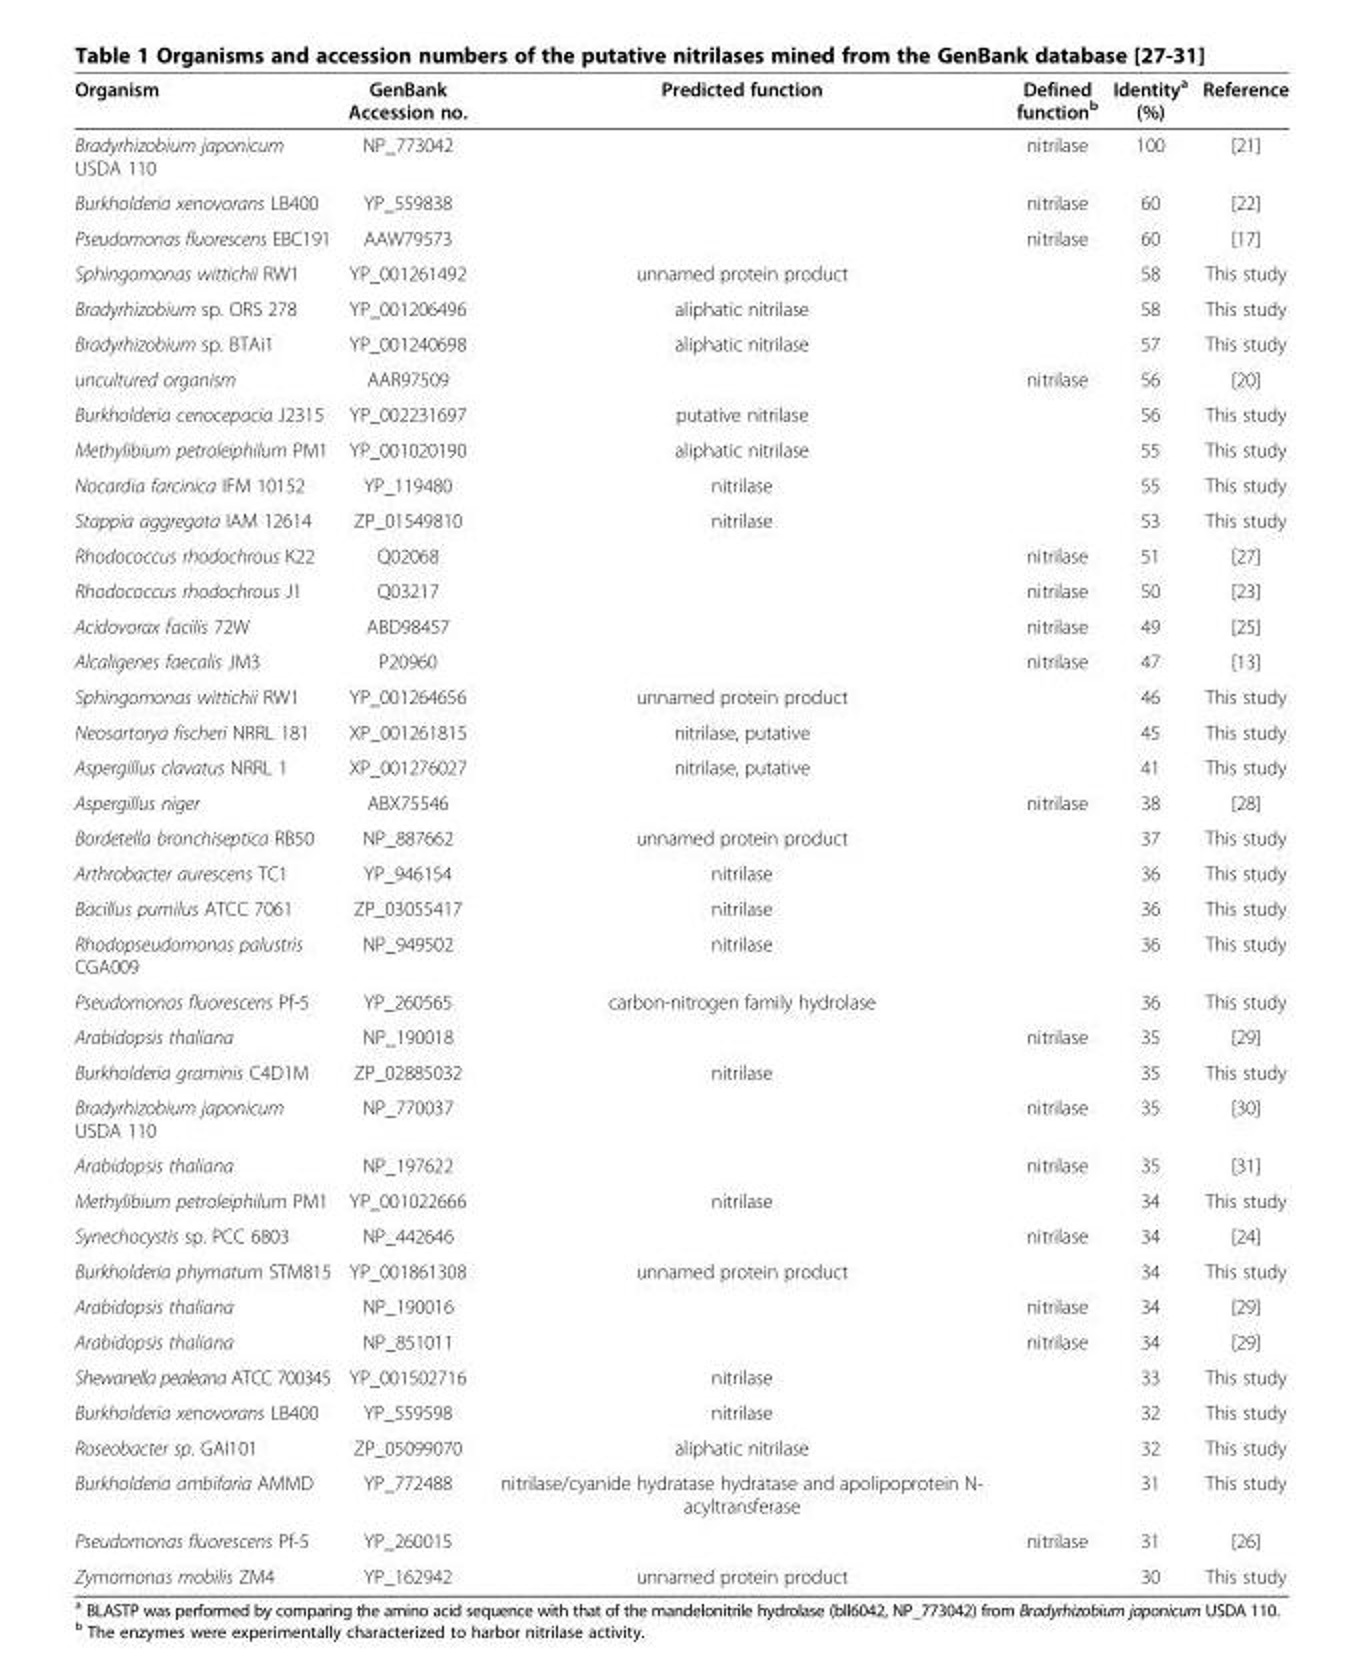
<table><thead><tr><td>Organism</td><td>GenBank Accession no.</td><td>Predicted function</td><td>Defined function<sup>b</sup></td><td>Identity<sup>a</sup> (%)</td><td>Reference</td></tr></thead><tbody><tr><td>Bradyrhizobium japonicum USDA 110</td><td>NP_773042</td><td></td><td>nitrilase</td><td>100</td><td>[21]</td></tr><tr><td>Burkholderia xenovorans LB400</td><td>YP_559838</td><td></td><td>nitrilase</td><td>60</td><td>[22]</td></tr><tr><td>Pseudomonas fluorescens EBC191</td><td>AAW79573</td><td></td><td>nitrilase</td><td>60</td><td>[17]</td></tr><tr><td>Sphingomonas wittichii RW1</td><td>YP_001261492</td><td>unnamed protein product</td><td></td><td>58</td><td>This study</td></tr><tr><td>Bradyrhizobium sp. ORS 278</td><td>YP_001206496</td><td>aliphatic nitrilase</td><td></td><td>58</td><td>This study</td></tr><tr><td>Bradyrhizobium sp. BTAi1</td><td>YP_001240698</td><td>aliphatic nitrilase</td><td></td><td>57</td><td>This study</td></tr><tr><td>uncultured organism</td><td>AAR97509</td><td></td><td>nitrilase</td><td>56</td><td>[20]</td></tr><tr><td>Burkholderia cenocepacia J2315</td><td>YP_002231697</td><td>putative nitrilase</td><td></td><td>56</td><td>This study</td></tr><tr><td>Methylibium petroleiphilum PM1</td><td>YP_001020190</td><td>aliphatic nitrilase</td><td></td><td>55</td><td>This study</td></tr><tr><td>Nocardia farcinica IFM 10152</td><td>YP_119480</td><td>nitrilase</td><td></td><td>55</td><td>This study</td></tr><tr><td>Stappia aggregata IAM 12614</td><td>ZP_01549810</td><td>nitrilase</td><td></td><td>53</td><td>This study</td></tr><tr><td>Rhodococcus rhodochrous K22</td><td>Q02068</td><td></td><td>nitrilase</td><td>51</td><td>[27]</td></tr><tr><td>Rhodococcus rhodochrous J1</td><td>Q03217</td><td></td><td>nitrilase</td><td>50</td><td>[23]</td></tr><tr><td>Acidovorax facilis 72W</td><td>ABD98457</td><td></td><td>nitrilase</td><td>49</td><td>[25]</td></tr><tr><td>Alcaligenes faecalis JM3</td><td>P20960</td><td></td><td>nitrilase</td><td>47</td><td>[13]</td></tr><tr><td>Sphingomonas wittichii RW1</td><td>YP_001264656</td><td>unnamed protein product</td><td></td><td>46</td><td>This study</td></tr><tr><td>Neosartorya fischeri NRRL 181</td><td>XP_001261815</td><td>nitrilase, putative</td><td></td><td>45</td><td>This study</td></tr><tr><td>Aspergillus clavatus NRRL 1</td><td>XP_001276027</td><td>nitrilase, putative</td><td></td><td>41</td><td>This study</td></tr><tr><td>Aspergillus niger</td><td>ABX75546</td><td></td><td>nitrilase</td><td>38</td><td>[28]</td></tr><tr><td>Bordetella bronchiseptica RB50</td><td>NP_887662</td><td>unnamed protein product</td><td></td><td>37</td><td>This study</td></tr><tr><td>Arthrobacter aurescens TC1</td><td>YP_946154</td><td>nitrilase</td><td></td><td>36</td><td>This study</td></tr><tr><td>Bacillus pumilus ATCC 7061</td><td>ZP_03055417</td><td>nitrilase</td><td></td><td>36</td><td>This study</td></tr><tr><td>Rhodopseudomonas palustris CGA009</td><td>NP_949502</td><td>nitrilase</td><td></td><td>36</td><td>This study</td></tr><tr><td>Pseudomonas fluorescens Pf-5</td><td>YP_260565</td><td>carbon-nitrogen family hydrolase</td><td></td><td>36</td><td>This study</td></tr><tr><td>Arabidopsis thaliana</td><td>NP_190018</td><td></td><td>nitrilase</td><td>35</td><td>[29]</td></tr><tr><td>Burkholderia graminis C4D1M</td><td>ZP_02885032</td><td>nitrilase</td><td></td><td>35</td><td>This study</td></tr><tr><td>Bradyrhizobium japonicum USDA 110</td><td>NP_770037</td><td></td><td>nitrilase</td><td>35</td><td>[30]</td></tr><tr><td>Arabidopsis thaliana</td><td>NP_197622</td><td></td><td>nitrilase</td><td>35</td><td>[31]</td></tr><tr><td>Methylibium petroleiphilum PM1</td><td>YP_001022666</td><td>nitrilase</td><td></td><td>34</td><td>This study</td></tr><tr><td>Synechocystis sp. PCC 6803</td><td>NP_442646</td><td></td><td>nitrilase</td><td>34</td><td>[24]</td></tr><tr><td>Burkholderia phymatum STM815</td><td>YP_001861308</td><td>unnamed protein product</td><td></td><td>34</td><td>This study</td></tr><tr><td>Arabidopsis thaliana</td><td>NP_190016</td><td></td><td>nitrilase</td><td>34</td><td>[29]</td></tr><tr><td>Arabidopsis thaliana</td><td>NP_851011</td><td></td><td>nitrilase</td><td>34</td><td>[29]</td></tr><tr><td>Shewanella pealeana ATCC 700345</td><td>YP_001502716</td><td>nitrilase</td><td></td><td>33</td><td>This study</td></tr><tr><td>Burkholderia xenovorans LB400</td><td>YP_559598</td><td>nitrilase</td><td></td><td>32</td><td>This study</td></tr><tr><td>Roseobacter sp. GAI101</td><td>ZP_05099070</td><td>aliphatic nitrilase</td><td></td><td>32</td><td>This study</td></tr><tr><td>Burkholderia ambifaria AMMD</td><td>YP_772488</td><td>nitrilase/cyanide hydratase hydratase and apolipoprotein N- acyltransferase</td><td></td><td>31</td><td>This study</td></tr><tr><td>Pseudomonas fluorescens Pf-5</td><td>YP_260015</td><td></td><td>nitrilase</td><td>31</td><td>[26]</td></tr><tr><td>Zymomonas mobilis ZM4</td><td>YP_162942</td><td>unnamed protein product</td><td></td><td>30</td><td>This study</td></tr></tbody></table>